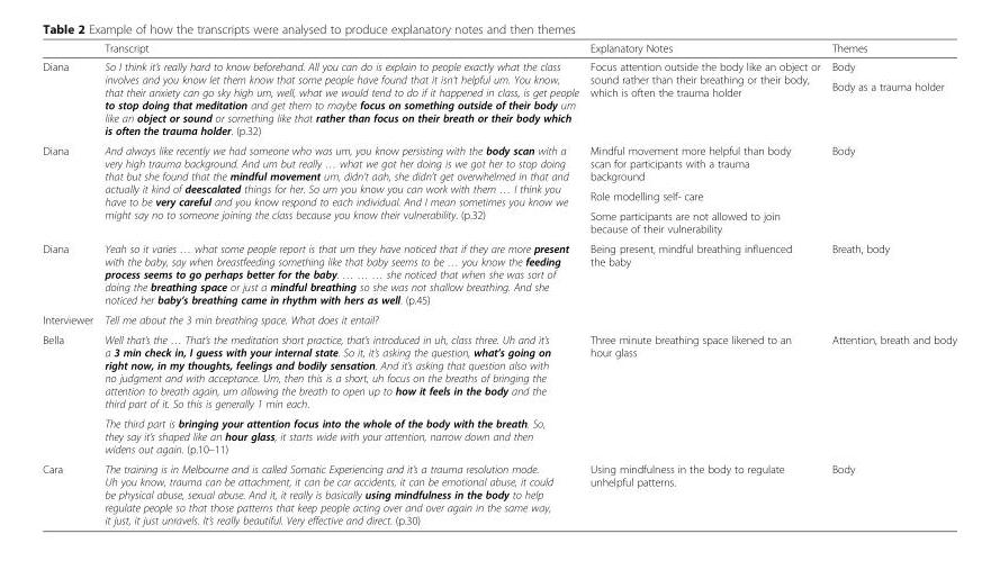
<table><thead><tr><td></td><td>Transcript</td><td>Explanatory Notes</td><td>Themes</td></tr></thead><tbody><tr><td rowspan="2">Diana</td><td rowspan="2">So I think it’s really hard to know beforehand. All you can do is explain to people exactly what the class involves and you know let them know that some people have found that it isn’t helpful um. You know, that their anxiety can go sky high um, well, what we would tend to do if it happened in class, is get people to stop doing that meditation and get them to maybe focus on something outside of their body um like an object or sound or something like that rather than focus on their breath or their body which is often the trauma holder. (p.32)</td><td rowspan="2">Focus attention outside the body like an object or sound rather than their breathing or their body, which is often the trauma holder</td><td>Body</td></tr><tr><td>Body as a trauma holder</td></tr><tr><td rowspan="3">Diana</td><td rowspan="3">And always like recently we had someone who was um, you know persisting with the body scan with a very high trauma background. And um but really … what we got her doing is we got her to stop doing that but she found that the mindful movement um, didn’t aah, she didn’t get overwhelmed in that and actually it kind of deescalated things for her. So um you know you can work with them … I think you have to be very careful and you know respond to each individual. And I mean sometimes you know we might say no to someone joining the class because you know their vulnerability. (p.32)</td><td>Mindful movement more helpful than body scan for participants with a trauma background</td><td rowspan="3">Body</td></tr><tr><td>Role modelling self- care</td></tr><tr><td>Some participants are not allowed to join because of their vulnerability</td></tr><tr><td>Diana</td><td>Yeah so it varies … what some people report is that um they have noticed that if they are more present with the baby, say when breastfeeding something like that baby seems to be … you know the feeding process seems to go perhaps better for the baby. … … … she noticed that when she was sort of doing the breathing space or just a mindful breathing so she was not shallow breathing. And she noticed her baby’s breathing came in rhythm with hers as well. (p.45)</td><td>Being present, mindful breathing influenced the baby</td><td>Breath, body</td></tr><tr><td>Interviewer</td><td>Tell me about the 3 min breathing space. What does it entail?</td><td></td><td></td></tr><tr><td rowspan="2">Bella</td><td>Well that’s the … That’s the meditation short practice, that’s introduced in uh, class three. Uh and it’s a 3 min check in, I guess with your internal state. So it, it’s asking the question, what’s going on right now, in my thoughts, feelings and bodily sensation. And it’s asking that question also with no judgment and with acceptance. Um, then this is a short, uh focus on the breaths of bringing the attention to breath again, um allowing the breath to open up to how it feels in the body and the third part of it. So this is generally 1 min each.</td><td rowspan="2">Three minute breathing space likened to an hour glass</td><td rowspan="2">Attention, breath and body</td></tr><tr><td>The third part is bringing your attention focus into the whole of the body with the breath. So, they say it’s shaped like an hour glass, it starts wide with your attention, narrow down and then widens out again. (p.10–11)</td></tr><tr><td>Cara</td><td>The training is in Melbourne and is called Somatic Experiencing and it’s a trauma resolution mode. Uh you know, trauma can be attachment, it can be car accidents, it can be emotional abuse, it could be physical abuse, sexual abuse. And it, it really is basically using mindfulness in the body to help regulate people so that those patterns that keep people acting over and over again in the same way, it just, it just unravels. It’s really beautiful. Very effective and direct. (p.30)</td><td>Using mindfulness in the body to regulate unhelpful patterns.</td><td>Body</td></tr></tbody></table>